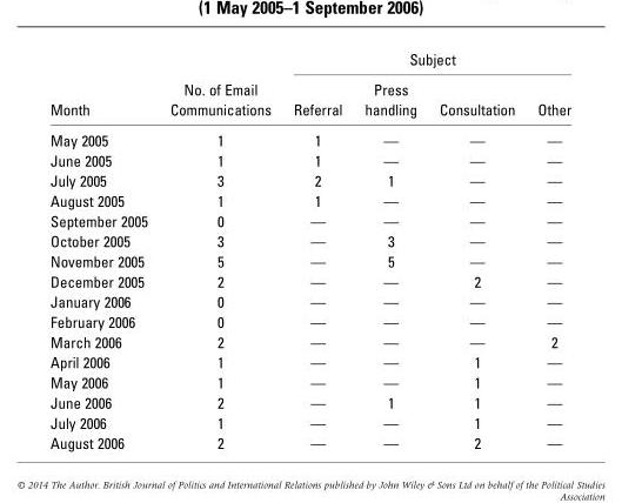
<table><thead><tr><td rowspan="2">Month</td><td rowspan="2">No. of Email Communications</td><td colspan="4">Subject</td></tr><tr><td>Referral</td><td>Press handling</td><td>Consultation</td><td>Other</td></tr></thead><tbody><tr><td>May 2005</td><td>1</td><td>1</td><td>—</td><td>—</td><td>—</td></tr><tr><td>June 2005</td><td>1</td><td>1</td><td>—</td><td>—</td><td>—</td></tr><tr><td>July 2005</td><td>3</td><td>2</td><td>1</td><td>—</td><td>—</td></tr><tr><td>August 2005</td><td>1</td><td>1</td><td>—</td><td>—</td><td>—</td></tr><tr><td>September 2005</td><td>0</td><td>—</td><td>—</td><td>—</td><td>—</td></tr><tr><td>October 2005</td><td>3</td><td>—</td><td>3</td><td>—</td><td>—</td></tr><tr><td>November 2005</td><td>5</td><td>—</td><td>5</td><td>—</td><td>—</td></tr><tr><td>December 2005</td><td>2</td><td>—</td><td>—</td><td>2</td><td>—</td></tr><tr><td>January 2006</td><td>0</td><td>—</td><td>—</td><td>—</td><td>—</td></tr><tr><td>February 2006</td><td>0</td><td>—</td><td>—</td><td>—</td><td>—</td></tr><tr><td>March 2006</td><td>2</td><td>—</td><td>—</td><td>—</td><td>2</td></tr><tr><td>April 2006</td><td>1</td><td>—</td><td>—</td><td>1</td><td>—</td></tr><tr><td>May 2006</td><td>1</td><td>—</td><td>—</td><td>1</td><td>—</td></tr><tr><td>June 2006</td><td>2</td><td>—</td><td>1</td><td>1</td><td>—</td></tr><tr><td>July 2006</td><td>1</td><td>—</td><td>—</td><td>1</td><td>—</td></tr><tr><td>August 2006</td><td>2</td><td>—</td><td>—</td><td>2</td><td>—</td></tr></tbody></table>